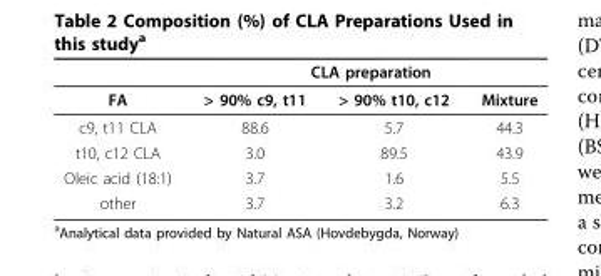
<table><thead><tr><td rowspan="2">FA</td><td colspan="3">CLA preparation</td></tr><tr><td>&gt; 90% c9, t11</td><td>&gt; 90% t10, c12</td><td>Mixture</td></tr></thead><tbody><tr><td>c9, t11 CLA</td><td>88.6</td><td>5.7</td><td>44.3</td></tr><tr><td>t10, c12 CLA</td><td>3.0</td><td>89.5</td><td>43.9</td></tr><tr><td>Oleic acid (18:1)</td><td>3.7</td><td>1.6</td><td>5.5</td></tr><tr><td>other</td><td>3.7</td><td>3.2</td><td>6.3</td></tr></tbody></table>